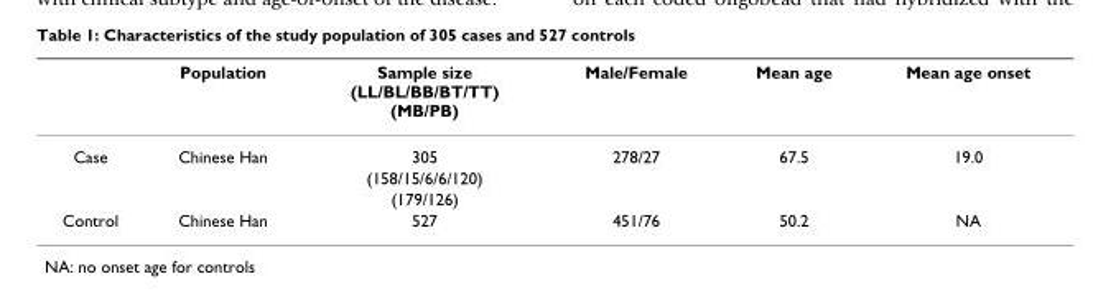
<table><thead><tr><td></td><td>Population</td><td>Sample size (LL/BL/BB/BT/TT) (MB/PB)</td><td>Male/Female</td><td>Mean age</td><td>Mean age onset</td></tr></thead><tbody><tr><td rowspan="3">Case</td><td>Chinese Han</td><td>305</td><td>278/27</td><td>67.5</td><td>19.0</td></tr><tr><td></td><td>(158/15/6/6/120)</td><td></td><td></td><td></td></tr><tr><td></td><td>(179/126)</td><td></td><td></td><td></td></tr><tr><td>Control</td><td>Chinese Han</td><td>527</td><td>451/76</td><td>50.2</td><td>NA</td></tr></tbody></table>